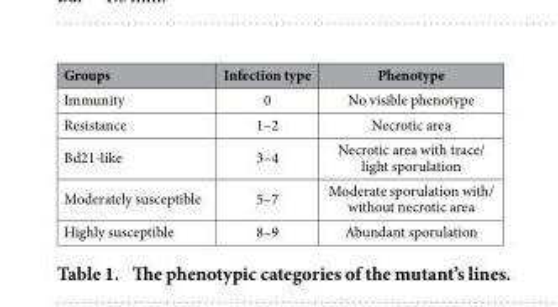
<table><thead><tr><td>Groups</td><td>Infection type</td><td>Phenotype</td></tr></thead><tbody><tr><td>Immunity</td><td>0</td><td>No visible phenotype</td></tr><tr><td>Resistance</td><td>1–2</td><td>Necrotic area</td></tr><tr><td>Bd21-like</td><td>3–4</td><td>Necrotic area with trace/ light sporulation</td></tr><tr><td>Moderately susceptible</td><td>5–7</td><td>Moderate sporulation with/ without necrotic area</td></tr><tr><td>Highly susceptible</td><td>8–9</td><td>Abundant sporulation</td></tr></tbody></table>